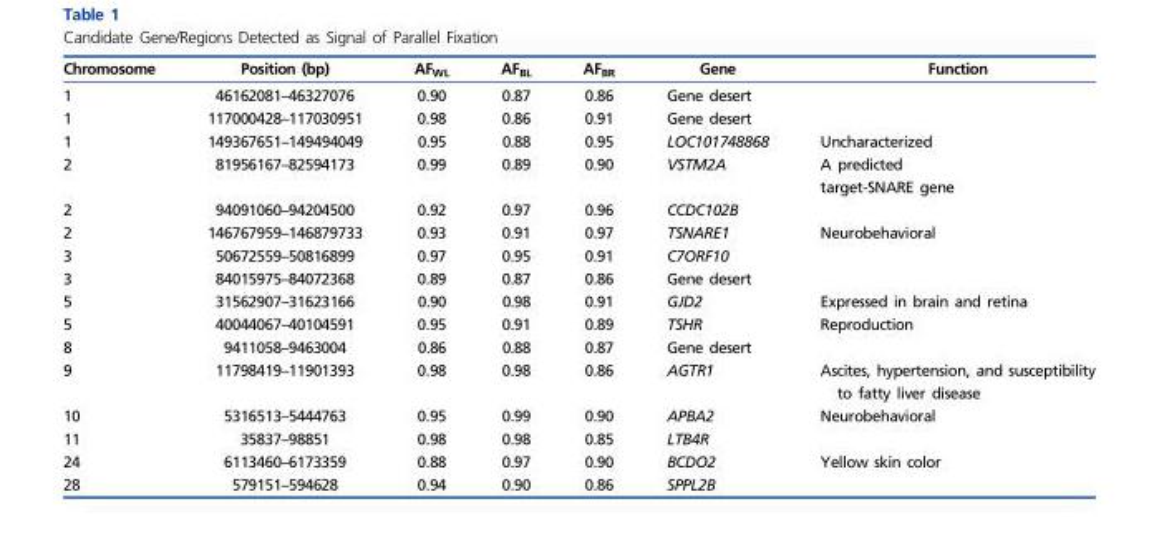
<table><thead><tr><td>Chromosome</td><td>Position (bp)</td><td>AF<sub>WL</sub></td><td>AF<sub>BL</sub></td><td>AF<sub>BR</sub></td><td>Gene</td><td>Function</td></tr></thead><tbody><tr><td>1</td><td>46162081–46327076</td><td>0.90</td><td>0.87</td><td>0.86</td><td>Gene desert</td><td></td></tr><tr><td>1</td><td>117000428–117030951</td><td>0.98</td><td>0.86</td><td>0.91</td><td>Gene desert</td><td></td></tr><tr><td>1</td><td>149367651–149494049</td><td>0.95</td><td>0.88</td><td>0.95</td><td>LOC101748868</td><td>Uncharacterized</td></tr><tr><td>2</td><td>81956167–82594173</td><td>0.99</td><td>0.89</td><td>0.90</td><td>VSTM2A</td><td>A predicted target-SNARE gene</td></tr><tr><td>2</td><td>94091060–94204500</td><td>0.92</td><td>0.97</td><td>0.96</td><td>CCDC102B</td><td></td></tr><tr><td>2</td><td>146767959–146879733</td><td>0.93</td><td>0.91</td><td>0.97</td><td>TSNARE1</td><td>Neurobehavioral</td></tr><tr><td>3</td><td>50672559–50816899</td><td>0.97</td><td>0.95</td><td>0.91</td><td>C7ORF10</td><td></td></tr><tr><td>3</td><td>84015975–84072368</td><td>0.89</td><td>0.87</td><td>0.86</td><td>Gene desert</td><td></td></tr><tr><td>5</td><td>31562907–31623166</td><td>0.90</td><td>0.98</td><td>0.91</td><td>GJD2</td><td>Expressed in brain and retina</td></tr><tr><td>5</td><td>40044067–40104591</td><td>0.95</td><td>0.91</td><td>0.89</td><td>TSHR</td><td>Reproduction</td></tr><tr><td>8</td><td>9411058–9463004</td><td>0.86</td><td>0.88</td><td>0.87</td><td>Gene desert</td><td></td></tr><tr><td>9</td><td>11798419–11901393</td><td>0.98</td><td>0.98</td><td>0.86</td><td>AGTR1</td><td>Ascites, hypertension, and susceptibility to fatty liver disease</td></tr><tr><td>10</td><td>5316513–5444763</td><td>0.95</td><td>0.99</td><td>0.90</td><td>APBA2</td><td>Neurobehavioral</td></tr><tr><td>11</td><td>35837–98851</td><td>0.98</td><td>0.98</td><td>0.85</td><td>LTB4R</td><td></td></tr><tr><td>24</td><td>6113460–6173359</td><td>0.88</td><td>0.97</td><td>0.90</td><td>BCDO2</td><td>Yellow skin color</td></tr><tr><td>28</td><td>579151–594628</td><td>0.94</td><td>0.90</td><td>0.86</td><td>SPPL2B</td><td></td></tr></tbody></table>